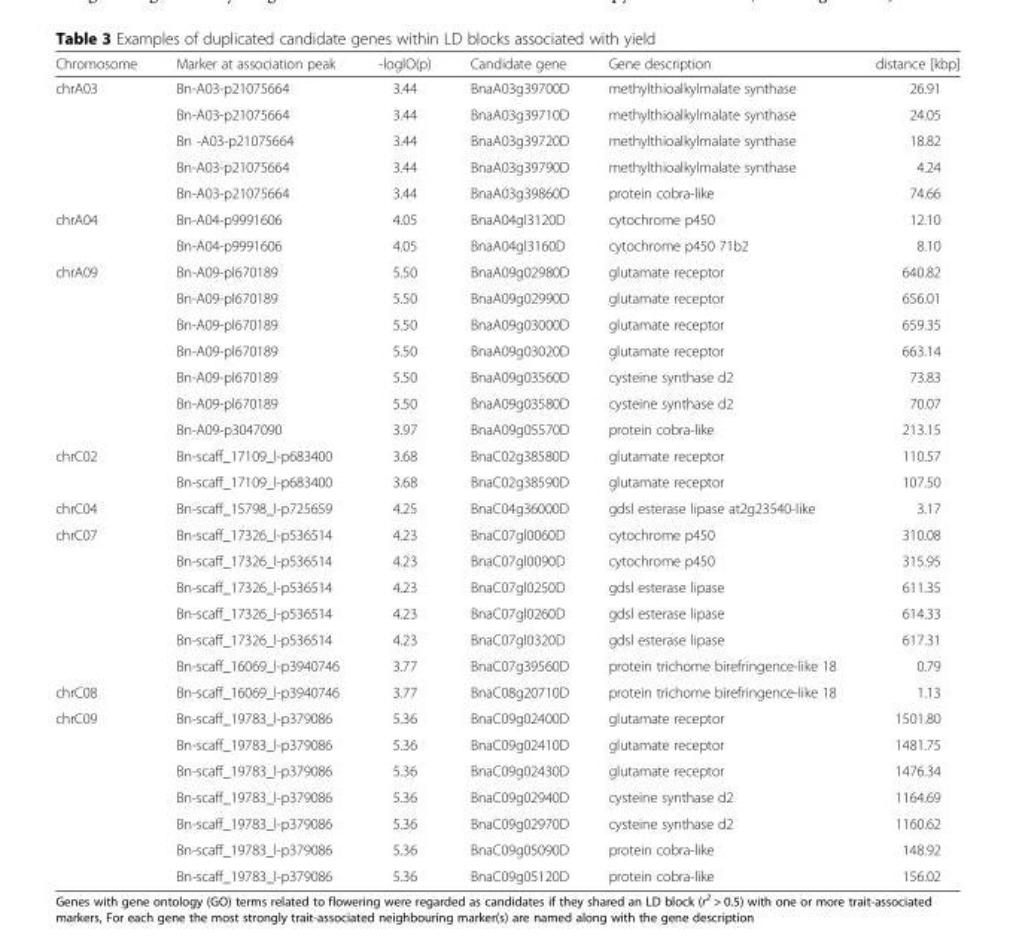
<table><thead><tr><td>Chromosome</td><td>Marker at association peak</td><td>-loglO(p)</td><td>Candidate gene</td><td>Gene description</td><td>distance [kbp]</td></tr></thead><tbody><tr><td rowspan="5">chrA03</td><td>Bn-A03-p21075664</td><td>3.44</td><td>BnaA03g39700D</td><td>methylthioalkylmalate synthase</td><td>26.91</td></tr><tr><td>Bn-A03-p21075664</td><td>3.44</td><td>BnaA03g39710D</td><td>methylthioalkylmalate synthase</td><td>24.05</td></tr><tr><td>Bn -A03-p21075664</td><td>3.44</td><td>BnaA03g39720D</td><td>methylthioalkylmalate synthase</td><td>18.82</td></tr><tr><td>Bn-A03-p21075664</td><td>3.44</td><td>BnaA03g39790D</td><td>methylthioalkylmalate synthase</td><td>4.24</td></tr><tr><td>Bn-A03-p21075664</td><td>3.44</td><td>BnaA03g39860D</td><td>protein cobra-like</td><td>74.66</td></tr><tr><td rowspan="2">chrA04</td><td>Bn-A04-p9991606</td><td>4.05</td><td>BnaA04gl3120D</td><td>cytochrome p450</td><td>12.10</td></tr><tr><td>Bn-A04-p9991606</td><td>4.05</td><td>BnaA04gl3160D</td><td>cytochrome p450 71b2</td><td>8.10</td></tr><tr><td rowspan="7">chrA09</td><td>Bn-A09-pl670189</td><td>5.50</td><td>BnaA09g02980D</td><td>glutamate receptor</td><td>640.82</td></tr><tr><td>Bn-A09-pl670189</td><td>5.50</td><td>BnaA09g02990D</td><td>glutamate receptor</td><td>656.01</td></tr><tr><td>Bn-A09-pl670189</td><td>5.50</td><td>BnaA09g03000D</td><td>glutamate receptor</td><td>659.35</td></tr><tr><td>Bn-A09-pl670189</td><td>5.50</td><td>BnaA09g03020D</td><td>glutamate receptor</td><td>663.14</td></tr><tr><td>Bn-A09-pl670189</td><td>5.50</td><td>BnaA09g03560D</td><td>cysteine synthase d2</td><td>73.83</td></tr><tr><td>Bn-A09-pl670189</td><td>5.50</td><td>BnaA09g03580D</td><td>cysteine synthase d2</td><td>70.07</td></tr><tr><td>Bn-A09-p3047090</td><td>3.97</td><td>BnaA09g05570D</td><td>protein cobra-like</td><td>213.15</td></tr><tr><td rowspan="2">chrC02</td><td>Bn-scaff_17109_l-p683400</td><td>3.68</td><td>BnaC02g38580D</td><td>glutamate receptor</td><td>110.57</td></tr><tr><td>Bn-scaff_17109_l-p683400</td><td>3.68</td><td>BnaC02g38590D</td><td>glutamate receptor</td><td>107.50</td></tr><tr><td>chrC04</td><td>Bn-scaff_15798_l-p725659</td><td>4.25</td><td>BnaC04g36000D</td><td>gdsl esterase lipase at2g23540-like</td><td>3.17</td></tr><tr><td rowspan="6">chrC07</td><td>Bn-scaff_17326_l-p536514</td><td>4.23</td><td>BnaC07gl0060D</td><td>cytochrome p450</td><td>310.08</td></tr><tr><td>Bn-scaff_17326_l-p536514</td><td>4.23</td><td>BnaC07gl0090D</td><td>cytochrome p450</td><td>315.95</td></tr><tr><td>Bn-scaff_17326_l-p536514</td><td>4.23</td><td>BnaC07gl0250D</td><td>gdsl esterase lipase</td><td>611.35</td></tr><tr><td>Bn-scaff_17326_l-p536514</td><td>4.23</td><td>BnaC07gl0260D</td><td>gdsl esterase lipase</td><td>614.33</td></tr><tr><td>Bn-scaff_17326_l-p536514</td><td>4.23</td><td>BnaC07gl0320D</td><td>gdsl esterase lipase</td><td>617.31</td></tr><tr><td>Bn-scaff_16069_l-p3940746</td><td>3.77</td><td>BnaC07g39560D</td><td>protein trichome birefringence-like 18</td><td>0.79</td></tr><tr><td>chrC08</td><td>Bn-scaff_16069_l-p3940746</td><td>3.77</td><td>BnaC08g20710D</td><td>protein trichome birefringence-like 18</td><td>1.13</td></tr><tr><td rowspan="7">chrC09</td><td>Bn-scaff_19783_l-p379086</td><td>5.36</td><td>BnaC09g02400D</td><td>glutamate receptor</td><td>1501.80</td></tr><tr><td>Bn-scaff_19783_l-p379086</td><td>5.36</td><td>BnaC09g02410D</td><td>glutamate receptor</td><td>1481.75</td></tr><tr><td>Bn-scaff_19783_l-p379086</td><td>5.36</td><td>BnaC09g02430D</td><td>glutamate receptor</td><td>1476.34</td></tr><tr><td>Bn-scaff_19783_l-p379086</td><td>5.36</td><td>BnaC09g02940D</td><td>cysteine synthase d2</td><td>1164.69</td></tr><tr><td>Bn-scaff_19783_l-p379086</td><td>5.36</td><td>BnaC09g02970D</td><td>cysteine synthase d2</td><td>1160.62</td></tr><tr><td>Bn-scaff_19783_l-p379086</td><td>5.36</td><td>BnaC09g05090D</td><td>protein cobra-like</td><td>148.92</td></tr><tr><td>Bn-scaff_19783_l-p379086</td><td>5.36</td><td>BnaC09g05120D</td><td>protein cobra-like</td><td>156.02</td></tr></tbody></table>